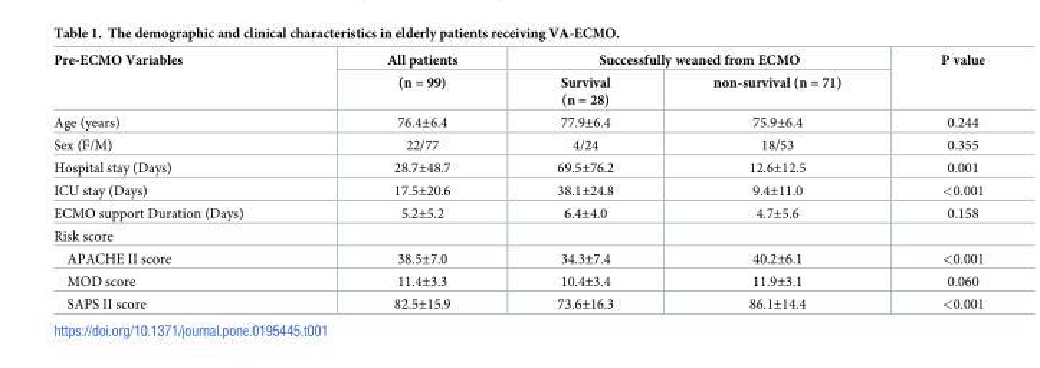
<table><thead><tr><td rowspan="2">Pre-ECMO Variables</td><td rowspan="2">All patients (n = 99)</td><td colspan="2">Successfully weaned from ECMO</td><td rowspan="2">P value</td></tr><tr><td>Survival (n = 28)</td><td>non-survival (n = 71)</td></tr></thead><tbody><tr><td>Age (years)</td><td>76.4±6.4</td><td>77.9±6.4</td><td>75.9±6.4</td><td>0.244</td></tr><tr><td>Sex (F/M)</td><td>22/77</td><td>4/24</td><td>18/53</td><td>0.355</td></tr><tr><td>Hospital stay (Days)</td><td>28.7±48.7</td><td>69.5±76.2</td><td>12.6±12.5</td><td>0.001</td></tr><tr><td>ICU stay (Days)</td><td>17.5±20.6</td><td>38.1±24.8</td><td>9.4±11.0</td><td>&lt;0.001</td></tr><tr><td>ECMO support Duration (Days)</td><td>5.2±5.2</td><td>6.4±4.0</td><td>4.7±5.6</td><td>0.158</td></tr><tr><td colspan="5">Risk score</td></tr><tr><td>APACHE II score</td><td>38.5±7.0</td><td>34.3±7.4</td><td>40.2±6.1</td><td>&lt;0.001</td></tr><tr><td>MOD score</td><td>11.4±3.3</td><td>10.4±3.4</td><td>11.9±3.1</td><td>0.060</td></tr><tr><td>SAPS II score</td><td>82.5±15.9</td><td>73.6±16.3</td><td>86.1±14.4</td><td>&lt;0.001</td></tr></tbody></table>